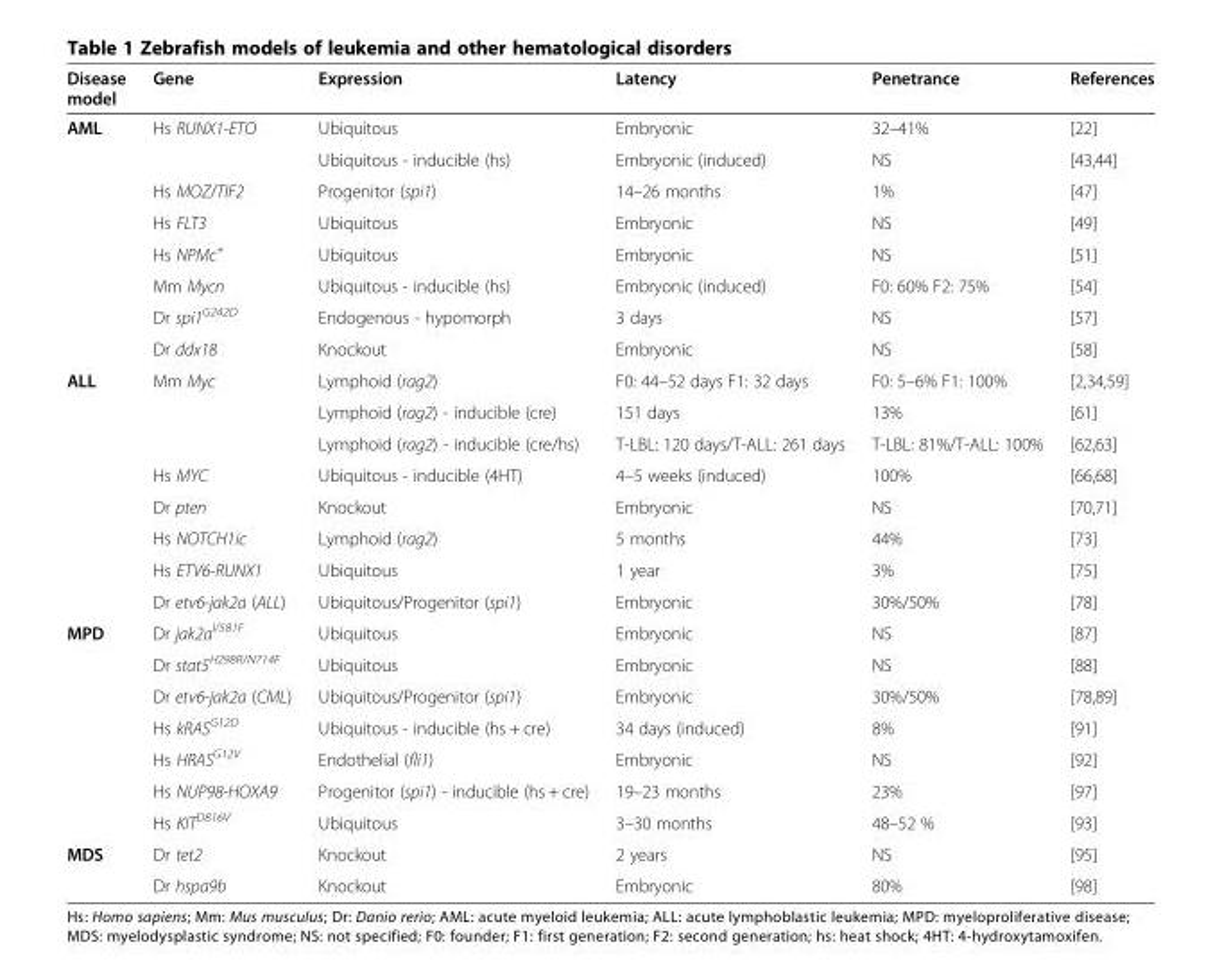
<table><thead><tr><td>Disease model</td><td>Gene</td><td>Expression</td><td>Latency</td><td>Penetrance</td><td>References</td></tr></thead><tbody><tr><td rowspan="8">AML</td><td rowspan="2">Hs RUNX1-ETO</td><td>Ubiquitous</td><td>Embryonic</td><td>32–41%</td><td>[22]</td></tr><tr><td>Ubiquitous - inducible (hs)</td><td>Embryonic (induced)</td><td>NS</td><td>[43,44]</td></tr><tr><td>Hs MOZ/TIF2</td><td>Progenitor (spi1)</td><td>14–26 months</td><td>1%</td><td>[47]</td></tr><tr><td>Hs FLT3</td><td>Ubiquitous</td><td>Embryonic</td><td>NS</td><td>[49]</td></tr><tr><td>Hs NPMc<sup>+</sup></td><td>Ubiquitous</td><td>Embryonic</td><td>NS</td><td>[51]</td></tr><tr><td>Mm Mycn</td><td>Ubiquitous - inducible (hs)</td><td>Embryonic (induced)</td><td>F0: 60% F2: 75%</td><td>[54]</td></tr><tr><td>Dr spi1<sup>G242D</sup></td><td>Endogenous - hypomorph</td><td>3 days</td><td>NS</td><td>[57]</td></tr><tr><td>Dr ddx18</td><td>Knockout</td><td>Embryonic</td><td>NS</td><td>[58]</td></tr><tr><td rowspan="8">ALL</td><td rowspan="3">Mm Myc</td><td>Lymphoid (rag2)</td><td>F0: 44–52 days F1: 32 days</td><td>F0: 5–6% F1: 100%</td><td>[2,34,59]</td></tr><tr><td>Lymphoid (rag2) - inducible (cre)</td><td>151 days</td><td>13%</td><td>[61]</td></tr><tr><td>Lymphoid (rag2) - inducible (cre/hs)</td><td>T-LBL: 120 days/T-ALL: 261 days</td><td>T-LBL: 81%/T-ALL: 100%</td><td>[62,63]</td></tr><tr><td>Hs MYC</td><td>Ubiquitous - inducible (4HT)</td><td>4–5 weeks (induced)</td><td>100%</td><td>[66,68]</td></tr><tr><td>Dr pten</td><td>Knockout</td><td>Embryonic</td><td>NS</td><td>[70,71]</td></tr><tr><td>Hs NOTCH1ic</td><td>Lymphoid (rag2)</td><td>5 months</td><td>44%</td><td>[73]</td></tr><tr><td>Hs ETV6-RUNX1</td><td>Ubiquitous</td><td>1 year</td><td>3%</td><td>[75]</td></tr><tr><td>Dr etv6-jak2a (ALL)</td><td>Ubiquitous/Progenitor (spi1)</td><td>Embryonic</td><td>30%/50%</td><td>[78]</td></tr><tr><td rowspan="7">MPD</td><td>Dr jak2a<sup>V581F</sup></td><td>Ubiquitous</td><td>Embryonic</td><td>NS</td><td>[87]</td></tr><tr><td>Dr stat5<sup>H298R/N714F</sup></td><td>Ubiquitous</td><td>Embryonic</td><td>NS</td><td>[88]</td></tr><tr><td>Dr etv6-jak2a (CML)</td><td>Ubiquitous/Progenitor (spi1)</td><td>Embryonic</td><td>30%/50%</td><td>[78,89]</td></tr><tr><td>Hs kRAS<sup>G12D</sup></td><td>Ubiquitous - inducible (hs + cre)</td><td>34 days (induced)</td><td>8%</td><td>[91]</td></tr><tr><td>Hs HRAS<sup>G12V</sup></td><td>Endothelial (fli1)</td><td>Embryonic</td><td>NS</td><td>[92]</td></tr><tr><td>Hs NUP98-HOXA9</td><td>Progenitor (spi1) - inducible (hs + cre)</td><td>19–23 months</td><td>23%</td><td>[97]</td></tr><tr><td>Hs KIT<sup>D816V</sup></td><td>Ubiquitous</td><td>3–30 months</td><td>48–52 %</td><td>[93]</td></tr><tr><td rowspan="2">MDS</td><td>Dr tet2</td><td>Knockout</td><td>2 years</td><td>NS</td><td>[95]</td></tr><tr><td>Dr hspa9b</td><td>Knockout</td><td>Embryonic</td><td>80%</td><td>[98]</td></tr></tbody></table>